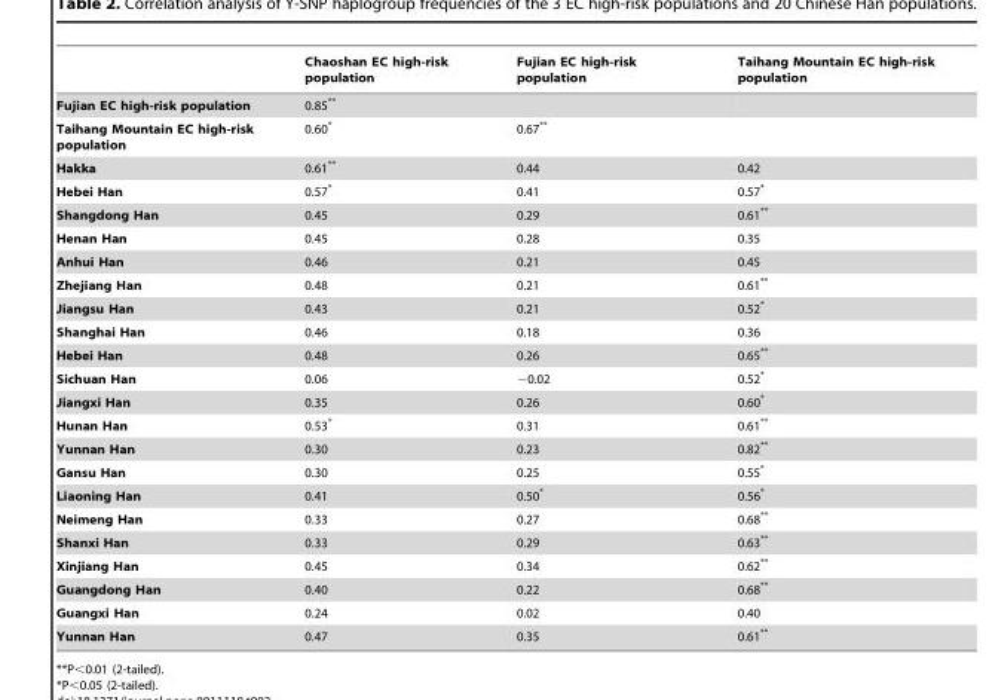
<table><thead><tr><td></td><td>Chaoshan EC high-risk population</td><td>Fujian EC high-risk population</td><td>Taihang Mountain EC high-risk population</td></tr></thead><tbody><tr><td>Fujian EC high-risk population</td><td>0.85**</td><td></td><td></td></tr><tr><td>Taihang Mountain EC high-risk population</td><td>0.60*</td><td>0.67**</td><td></td></tr><tr><td>Hakka</td><td>0.61**</td><td>0.44</td><td>0.42</td></tr><tr><td>Hebei Han</td><td>0.57*</td><td>0.41</td><td>0.57*</td></tr><tr><td>Shangdong Han</td><td>0.45</td><td>0.29</td><td>0.61**</td></tr><tr><td>Henan Han</td><td>0.45</td><td>0.28</td><td>0.35</td></tr><tr><td>Anhui Han</td><td>0.46</td><td>0.21</td><td>0.45</td></tr><tr><td>Zhejiang Han</td><td>0.48</td><td>0.21</td><td>0.61**</td></tr><tr><td>Jiangsu Han</td><td>0.43</td><td>0.21</td><td>0.52*</td></tr><tr><td>Shanghai Han</td><td>0.46</td><td>0.18</td><td>0.36</td></tr><tr><td>Hebei Han</td><td>0.48</td><td>0.26</td><td>0.65**</td></tr><tr><td>Sichuan Han</td><td>0.06</td><td>−0.02</td><td>0.52*</td></tr><tr><td>Jiangxi Han</td><td>0.35</td><td>0.26</td><td>0.60*</td></tr><tr><td>Hunan Han</td><td>0.53*</td><td>0.31</td><td>0.61**</td></tr><tr><td>Yunnan Han</td><td>0.30</td><td>0.23</td><td>0.82**</td></tr><tr><td>Gansu Han</td><td>0.30</td><td>0.25</td><td>0.55*</td></tr><tr><td>Liaoning Han</td><td>0.41</td><td>0.50*</td><td>0.56*</td></tr><tr><td>Neimeng Han</td><td>0.33</td><td>0.27</td><td>0.68**</td></tr><tr><td>Shanxi Han</td><td>0.33</td><td>0.29</td><td>0.63**</td></tr><tr><td>Xinjiang Han</td><td>0.45</td><td>0.34</td><td>0.62**</td></tr><tr><td>Guangdong Han</td><td>0.40</td><td>0.22</td><td>0.68**</td></tr><tr><td>Guangxi Han</td><td>0.24</td><td>0.02</td><td>0.40</td></tr><tr><td>Yunnan Han</td><td>0.47</td><td>0.35</td><td>0.61**</td></tr></tbody></table>